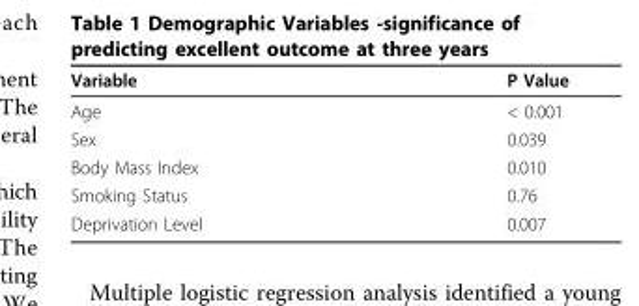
<table><thead><tr><td>Variable</td><td>P Value</td></tr></thead><tbody><tr><td>Age</td><td>&lt; 0.001</td></tr><tr><td>Sex</td><td>0.039</td></tr><tr><td>Body Mass Index</td><td>0.010</td></tr><tr><td>Smoking Status</td><td>0.76</td></tr><tr><td>Deprivation Level</td><td>0.007</td></tr></tbody></table>